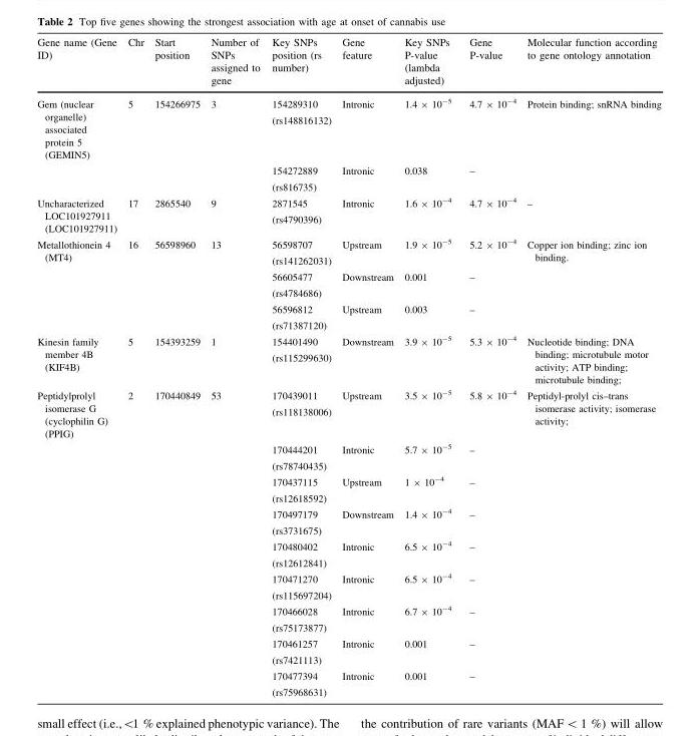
<table><thead><tr><td>Gene name (Gene ID)</td><td>Chr</td><td>Start position</td><td>Number of SNPs assigned to gene</td><td>Key SNPs position (rs number)</td><td>Gene feature</td><td>Key SNPs P-value (lambda adjusted)</td><td>Gene P-value</td><td>Molecular function according to gene ontology annotation</td></tr></thead><tbody><tr><td rowspan="2">Gem (nuclear organelle) associated protein 5 (GEMIN5)</td><td>5</td><td>154266975</td><td>3</td><td>154289310 (rs148816132)</td><td>Intronic</td><td>1.4 × 10<sup>-5</sup></td><td>4.7 × 10<sup>-4</sup></td><td>Protein binding; snRNA binding</td></tr><tr><td></td><td></td><td></td><td>154272889 (rs816735)</td><td>Intronic</td><td>0.038</td><td>–</td><td></td></tr><tr><td>Uncharacterized LOC101927911 (LOC101927911)</td><td>17</td><td>2865540</td><td>9</td><td>2871545 (rs4790396)</td><td>Intronic</td><td>1.6 × 10<sup>-4</sup></td><td>4.7 × 10<sup>-4</sup></td><td>–</td></tr><tr><td rowspan="3">Metallothionein 4 (MT4)</td><td>16</td><td>56598960</td><td>13</td><td>56598707 (rs141262031)</td><td>Upstream</td><td>1.9 × 10<sup>-5</sup></td><td>5.2 × 10<sup>-4</sup></td><td>Copper ion binding; zinc ion binding.</td></tr><tr><td></td><td></td><td></td><td>56605477 (rs4784686)</td><td>Downstream</td><td>0.001</td><td>–</td><td></td></tr><tr><td></td><td></td><td></td><td>56596812 (rs71387120)</td><td>Upstream</td><td>0.003</td><td>–</td><td></td></tr><tr><td>Kinesin family member 4B (KIF4B)</td><td>5</td><td>154393259</td><td>1</td><td>154401490 (rs115299630)</td><td>Downstream</td><td>3.9 × 10<sup>-5</sup></td><td>5.3 × 10<sup>-4</sup></td><td>Nucleotide binding; DNA binding; microtubule motor activity; ATP binding; microtubule binding;</td></tr><tr><td rowspan="9">Peptidylprolyl isomerase G (cyclophilin G) (PPIG)</td><td>2</td><td>170440849</td><td>53</td><td>170439011 (rs118138006)</td><td>Upstream</td><td>3.5 × 10<sup>-5</sup></td><td>5.8 × 10<sup>-4</sup></td><td>Peptidyl-prolyl cis–trans isomerase activity; isomerase activity;</td></tr><tr><td></td><td></td><td></td><td>170444201 (rs78740435)</td><td>Intronic</td><td>5.7 × 10<sup>-5</sup></td><td>–</td><td></td></tr><tr><td></td><td></td><td></td><td>170437115 (rs12618592)</td><td>Upstream</td><td>1 × 10<sup>-4</sup></td><td>–</td><td></td></tr><tr><td></td><td></td><td></td><td>170497179 (rs3731675)</td><td>Downstream</td><td>1.4 × 10<sup>-4</sup></td><td>–</td><td></td></tr><tr><td></td><td></td><td></td><td>170480402 (rs12612841)</td><td>Intronic</td><td>6.5 × 10<sup>-4</sup></td><td>–</td><td></td></tr><tr><td></td><td></td><td></td><td>170471270 (rs115697204)</td><td>Intronic</td><td>6.5 × 10<sup>-4</sup></td><td>–</td><td></td></tr><tr><td></td><td></td><td></td><td>170466028 (rs75173877)</td><td>Intronic</td><td>6.7 × 10<sup>-4</sup></td><td>–</td><td></td></tr><tr><td></td><td></td><td></td><td>170461257 (rs7421113)</td><td>Intronic</td><td>0.001</td><td>–</td><td></td></tr><tr><td></td><td></td><td></td><td>170477394 (rs75968631)</td><td>Intronic</td><td>0.001</td><td>–</td><td></td></tr></tbody></table>